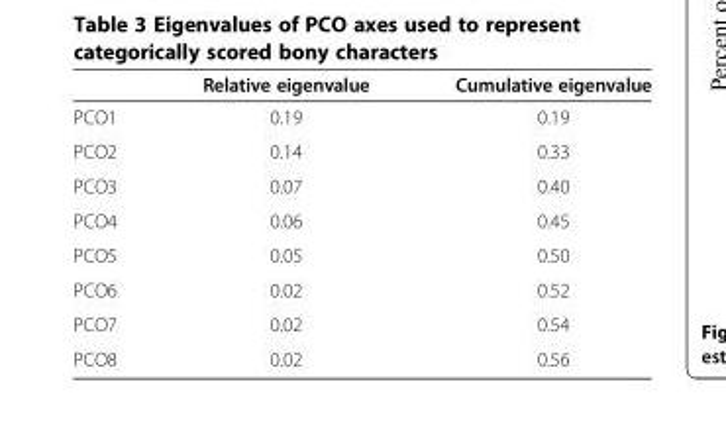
<table><thead><tr><td></td><td>Relative eigenvalue</td><td>Cumulative eigenvalue</td></tr></thead><tbody><tr><td>PCO1</td><td>0.19</td><td>0.19</td></tr><tr><td>PCO2</td><td>0.14</td><td>0.33</td></tr><tr><td>PCO3</td><td>0.07</td><td>0.40</td></tr><tr><td>PCO4</td><td>0.06</td><td>0.45</td></tr><tr><td>PCO5</td><td>0.05</td><td>0.50</td></tr><tr><td>PCO6</td><td>0.02</td><td>0.52</td></tr><tr><td>PCO7</td><td>0.02</td><td>0.54</td></tr><tr><td>PCO8</td><td>0.02</td><td>0.56</td></tr></tbody></table>